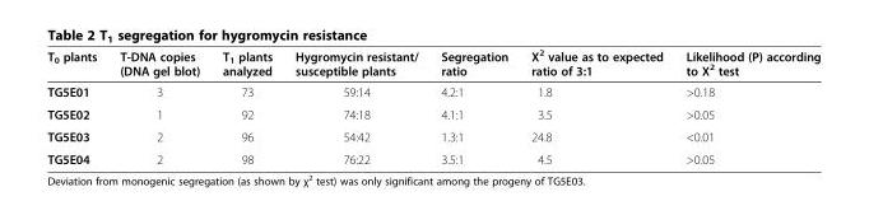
<table><thead><tr><td>T<sub>0</sub> plants</td><td>T-DNA copies (DNA gel blot)</td><td>T<sub>1</sub> plants analyzed</td><td>Hygromycin resistant/ susceptible plants</td><td>Segregation ratio</td><td>Χ<sup>2</sup> value as to expected ratio of 3:1</td><td>Likelihood (P) according to Χ<sup>2</sup> test</td></tr></thead><tbody><tr><td>TG5E01</td><td>3</td><td>73</td><td>59:14</td><td>4.2:1</td><td>1.8</td><td>&gt;0.18</td></tr><tr><td>TG5E02</td><td>1</td><td>92</td><td>74:18</td><td>4.1:1</td><td>3.5</td><td>&gt;0.05</td></tr><tr><td>TG5E03</td><td>2</td><td>96</td><td>54:42</td><td>1.3:1</td><td>24.8</td><td>&lt;0.01</td></tr><tr><td>TG5E04</td><td>2</td><td>98</td><td>76:22</td><td>3.5:1</td><td>4.5</td><td>&gt;0.05</td></tr></tbody></table>